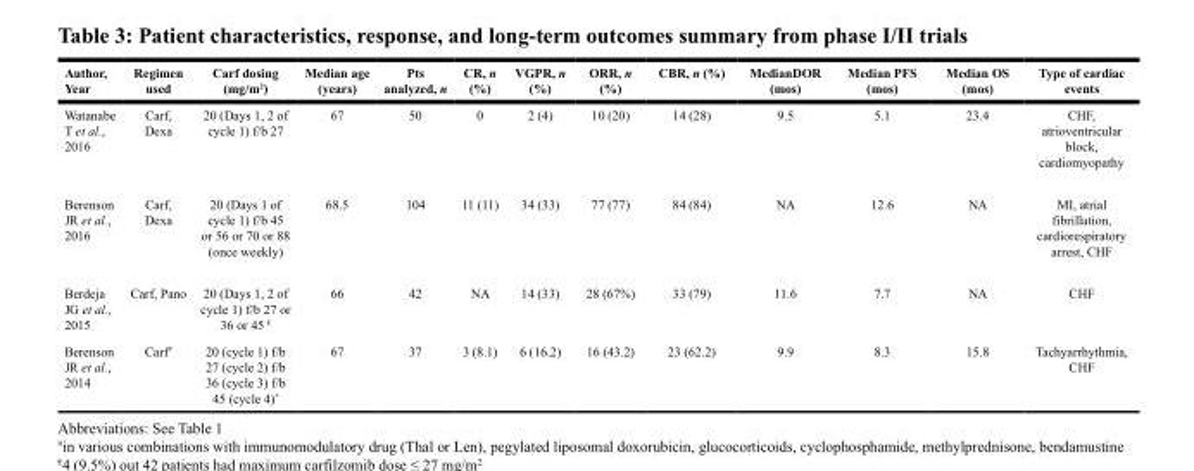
<table><thead><tr><td>Author, Year</td><td>Regimen used</td><td>Carf dosing (mg/m<sup>2</sup>)</td><td>Median age (years)</td><td>Pts analyzed, n</td><td>CR, n (%)</td><td>VGPR, n (%)</td><td>ORR, n (%)</td><td>CBR, n (%)</td><td>MedianDOR (mos)</td><td>Median PFS (mos)</td><td>Median OS (mos)</td><td>Type of cardiac events</td></tr></thead><tbody><tr><td>Watanabe T et al., 2016</td><td>Carf, Dexa</td><td>20 (Days 1, 2 of cycle 1) f/b 27</td><td>67</td><td>50</td><td>0</td><td>2 (4)</td><td>10 (20)</td><td>14 (28)</td><td>9.5</td><td>5.1</td><td>23.4</td><td>CHF, atrioventricular block, cardiomyopathy</td></tr><tr><td>Berenson JR et al., 2016</td><td>Carf, Dexa</td><td>20 (Days 1 of cycle 1) f/b 45 or 56 or 70 or 88 (once weekly)</td><td>68.5</td><td>104</td><td>11 (11)</td><td>34 (33)</td><td>77 (77)</td><td>84 (84)</td><td>NA</td><td>12.6</td><td>NA</td><td>MI, atrial fibrillation, cardiorespiratory arrest, CHF</td></tr><tr><td>Berdeja JG et al., 2015</td><td>Carf, Pano</td><td>20 (Days 1, 2 of cycle 1) f/b 27 or 36 or 45 <sup>€</sup></td><td>66</td><td>42</td><td>NA</td><td>14 (33)</td><td>28 (67%)</td><td>33 (79)</td><td>11.6</td><td>7.7</td><td>NA</td><td>CHF</td></tr><tr><td>Berenson JR et al., 2014</td><td>Carf<sup>#</sup></td><td>20 (cycle 1) f/b 27 (cycle 2) f/b 36 (cycle 3) f/b 45 (cycle 4)*</td><td>67</td><td>37</td><td>3 (8.1)</td><td>6 (16.2)</td><td>16 (43.2)</td><td>23 (62.2)</td><td>9.9</td><td>8.3</td><td>15.8</td><td>Tachyarrhythmia, CHF</td></tr></tbody></table>